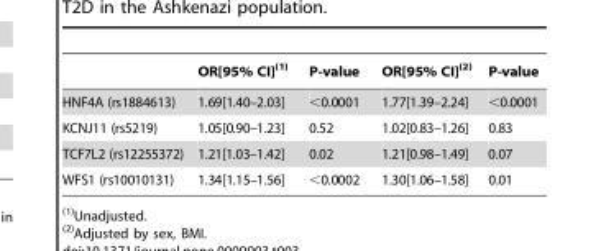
<table><thead><tr><td></td><td>OR[95% CI](1)</td><td>P-value</td><td>OR[95% CI](2)</td><td>P-value</td></tr></thead><tbody><tr><td>HNF4A (rs1884613)</td><td>1.69[1.40–2.03]</td><td>&lt;0.0001</td><td>1.77[1.39–2.24]</td><td>&lt;0.0001</td></tr><tr><td>KCNJ11 (rs5219)</td><td>1.05[0.90–1.23]</td><td>0.52</td><td>1.02[0.83–1.26]</td><td>0.83</td></tr><tr><td>TCF7L2 (rs12255372)</td><td>1.21[1.03–1.42]</td><td>0.02</td><td>1.21[0.98–1.49]</td><td>0.07</td></tr><tr><td>WFS1 (rs10010131)</td><td>1.34[1.15–1.56]</td><td>&lt;0.0002</td><td>1.30[1.06–1.58]</td><td>0.01</td></tr></tbody></table>